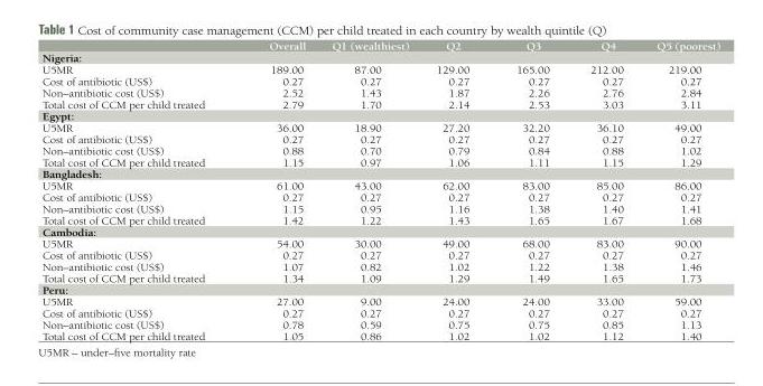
<table><thead><tr><td></td><td>Overall</td><td>Q1 (wealthiest)</td><td>Q2</td><td>Q3</td><td>Q4</td><td>Q5 (poorest)</td></tr></thead><tbody><tr><td colspan="7">Nigeria:</td></tr><tr><td>U5MR</td><td>189.00</td><td>87.00</td><td>129.00</td><td>165.00</td><td>212.00</td><td>219.00</td></tr><tr><td>Cost of antibiotic (US$)</td><td>0.27</td><td>0.27</td><td>0.27</td><td>0.27</td><td>0.27</td><td>0.27</td></tr><tr><td>Non–antibiotic cost (US$)</td><td>2.52</td><td>1.43</td><td>1.87</td><td>2.26</td><td>2.76</td><td>2.84</td></tr><tr><td>Total cost of CCM per child treated</td><td>2.79</td><td>1.70</td><td>2.14</td><td>2.53</td><td>3.03</td><td>3.11</td></tr><tr><td colspan="7">Egypt:</td></tr><tr><td>U5MR</td><td>36.00</td><td>18.90</td><td>27.20</td><td>32.20</td><td>36.10</td><td>49.00</td></tr><tr><td>Cost of antibiotic (US$)</td><td>0.27</td><td>0.27</td><td>0.27</td><td>0.27</td><td>0.27</td><td>0.27</td></tr><tr><td>Non–antibiotic cost (US$)</td><td>0.88</td><td>0.70</td><td>0.79</td><td>0.84</td><td>0.88</td><td>1.02</td></tr><tr><td>Total cost of CCM per child treated</td><td>1.15</td><td>0.97</td><td>1.06</td><td>1.11</td><td>1.15</td><td>1.29</td></tr><tr><td colspan="7">Bangladesh:</td></tr><tr><td>U5MR</td><td>61.00</td><td>43.00</td><td>62.00</td><td>83.00</td><td>85.00</td><td>86.00</td></tr><tr><td>Cost of antibiotic (US$)</td><td>0.27</td><td>0.27</td><td>0.27</td><td>0.27</td><td>0.27</td><td>0.27</td></tr><tr><td>Non–antibiotic cost (US$)</td><td>1.15</td><td>0.95</td><td>1.16</td><td>1.38</td><td>1.40</td><td>1.41</td></tr><tr><td>Total cost of CCM per child treated</td><td>1.42</td><td>1.22</td><td>1.43</td><td>1.65</td><td>1.67</td><td>1.68</td></tr><tr><td colspan="7">Cambodia:</td></tr><tr><td>U5MR</td><td>54.00</td><td>30.00</td><td>49.00</td><td>68.00</td><td>83.00</td><td>90.00</td></tr><tr><td>Cost of antibiotic (US$)</td><td>0.27</td><td>0.27</td><td>0.27</td><td>0.27</td><td>0.27</td><td>0.27</td></tr><tr><td>Non–antibiotic cost (US$)</td><td>1.07</td><td>0.82</td><td>1.02</td><td>1.22</td><td>1.38</td><td>1.46</td></tr><tr><td>Total cost of CCM per child treated</td><td>1.34</td><td>1.09</td><td>1.29</td><td>1.49</td><td>1.65</td><td>1.73</td></tr><tr><td colspan="7">Peru:</td></tr><tr><td>U5MR</td><td>27.00</td><td>9.00</td><td>24.00</td><td>24.00</td><td>33.00</td><td>59.00</td></tr><tr><td>Cost of antibiotic (US$)</td><td>0.27</td><td>0.27</td><td>0.27</td><td>0.27</td><td>0.27</td><td>0.27</td></tr><tr><td>Non–antibiotic cost (US$)</td><td>0.78</td><td>0.59</td><td>0.75</td><td>0.75</td><td>0.85</td><td>1.13</td></tr><tr><td>Total cost of CCM per child treated</td><td>1.05</td><td>0.86</td><td>1.02</td><td>1.02</td><td>1.12</td><td>1.40</td></tr></tbody></table>